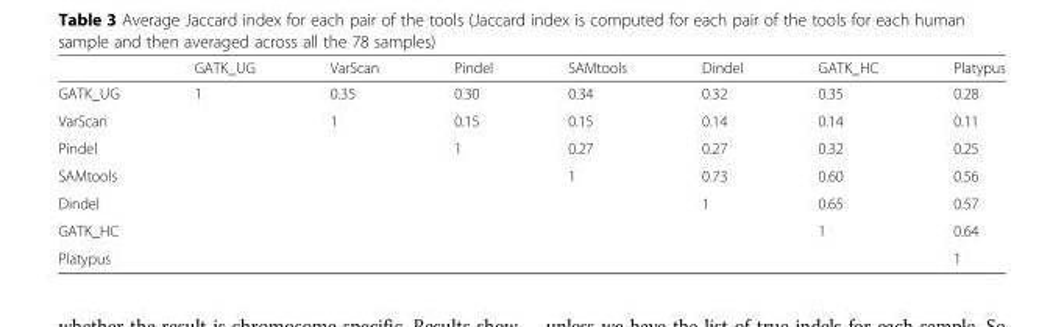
<table><thead><tr><td></td><td>GATK_UG</td><td>VarScan</td><td>Pindel</td><td>SAMtools</td><td>Dindel</td><td>GATK_HC</td><td>Platypus</td></tr></thead><tbody><tr><td>GATK_UG</td><td>1</td><td>0.35</td><td>0.30</td><td>0.34</td><td>0.32</td><td>0.35</td><td>0.28</td></tr><tr><td>VarScan</td><td></td><td>1</td><td>0.15</td><td>0.15</td><td>0.14</td><td>0.14</td><td>0.11</td></tr><tr><td>Pindel</td><td></td><td></td><td>1</td><td>0.27</td><td>0.27</td><td>0.32</td><td>0.25</td></tr><tr><td>SAMtools</td><td></td><td></td><td></td><td>1</td><td>0.73</td><td>0.60</td><td>0.56</td></tr><tr><td>Dindel</td><td></td><td></td><td></td><td></td><td>1</td><td>0.65</td><td>0.57</td></tr><tr><td>GATK_HC</td><td></td><td></td><td></td><td></td><td></td><td>1</td><td>0.64</td></tr><tr><td>Platypus</td><td></td><td></td><td></td><td></td><td></td><td></td><td>1</td></tr></tbody></table>